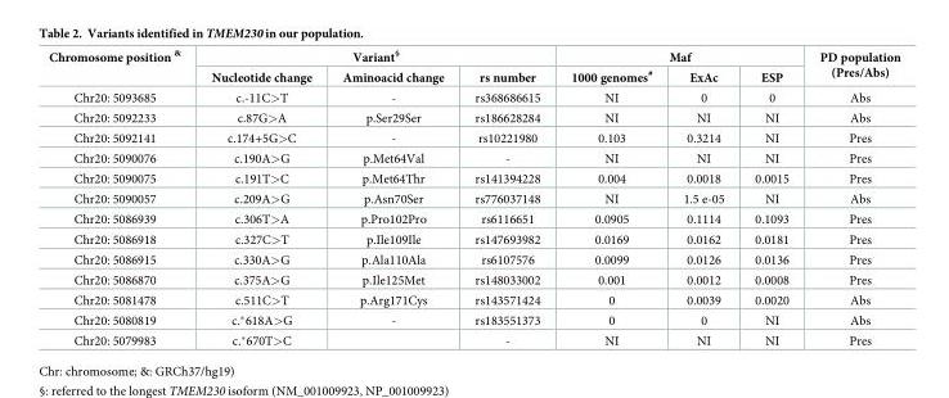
<table><thead><tr><td rowspan="2">Chromosome position <sup>&amp;</sup></td><td colspan="3">Variant<sup>§</sup></td><td colspan="3">Maf</td><td rowspan="2">PD population (Pres/Abs)</td></tr><tr><td>Nucleotide change</td><td>Aminoacid change</td><td>rs number</td><td>1000 genomes<sup>#</sup></td><td>ExAc</td><td>ESP</td></tr></thead><tbody><tr><td>Chr20: 5093685</td><td>c.-11C&gt;T</td><td>-</td><td>rs368686615</td><td>NI</td><td>0</td><td>0</td><td>Abs</td></tr><tr><td>Chr20: 5092233</td><td>c.87G&gt;A</td><td>p.Ser29Ser</td><td>rs186628284</td><td>NI</td><td>NI</td><td>NI</td><td>Abs</td></tr><tr><td>Chr20: 5092141</td><td>c.174+5G&gt;C</td><td>-</td><td>rs10221980</td><td>0.103</td><td>0.3214</td><td>NI</td><td>Pres</td></tr><tr><td>Chr20: 5090076</td><td>c.190A&gt;G</td><td>p.Met64Val</td><td>-</td><td>NI</td><td>NI</td><td>NI</td><td>Pres</td></tr><tr><td>Chr20: 5090075</td><td>c.191T&gt;C</td><td>p.Met64Thr</td><td>rs141394228</td><td>0.004</td><td>0.0018</td><td>0.0015</td><td>Pres</td></tr><tr><td>Chr20: 5090057</td><td>c.209A&gt;G</td><td>p.Asn70Ser</td><td>rs776037148</td><td>NI</td><td>1.5 e-05</td><td>NI</td><td>Abs</td></tr><tr><td>Chr20: 5086939</td><td>c.306T&gt;A</td><td>p.Pro102Pro</td><td>rs6116651</td><td>0.0905</td><td>0.1114</td><td>0.1093</td><td>Pres</td></tr><tr><td>Chr20: 5086918</td><td>c.327C&gt;T</td><td>p.Ile109Ile</td><td>rs147693982</td><td>0.0169</td><td>0.0162</td><td>0.0181</td><td>Pres</td></tr><tr><td>Chr20: 5086915</td><td>c.330A&gt;G</td><td>p.Ala110Ala</td><td>rs6107576</td><td>0.0099</td><td>0.0126</td><td>0.0136</td><td>Pres</td></tr><tr><td>Chr20: 5086870</td><td>c.375A&gt;G</td><td>p.Ile125Met</td><td>rs148033002</td><td>0.001</td><td>0.0012</td><td>0.0008</td><td>Pres</td></tr><tr><td>Chr20: 5081478</td><td>c.511C&gt;T</td><td>p.Arg171Cys</td><td>rs143571424</td><td>0</td><td>0.0039</td><td>0.0020</td><td>Abs</td></tr><tr><td>Chr20: 5080819</td><td>c.*618A&gt;G</td><td>-</td><td>rs183551373</td><td>0</td><td>0</td><td>NI</td><td>Abs</td></tr><tr><td>Chr20: 5079983</td><td>c.*670T&gt;C</td><td></td><td>-</td><td>NI</td><td>NI</td><td>NI</td><td>Pres</td></tr></tbody></table>